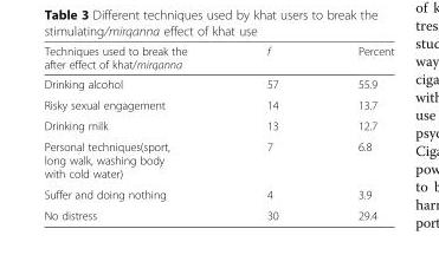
<table><thead><tr><td>Techniques used to break the after effect of khat/mirqanna</td><td>f</td><td>Percent</td></tr></thead><tbody><tr><td>Drinking alcohol</td><td>57</td><td>55.9</td></tr><tr><td>Risky sexual engagement</td><td>14</td><td>13.7</td></tr><tr><td>Drinking milk</td><td>13</td><td>12.7</td></tr><tr><td>Personal techniques(sport, long walk, washing body with cold water)</td><td>7</td><td>6.8</td></tr><tr><td>Suffer and doing nothing</td><td>4</td><td>3.9</td></tr><tr><td>No distress</td><td>30</td><td>29.4</td></tr></tbody></table>